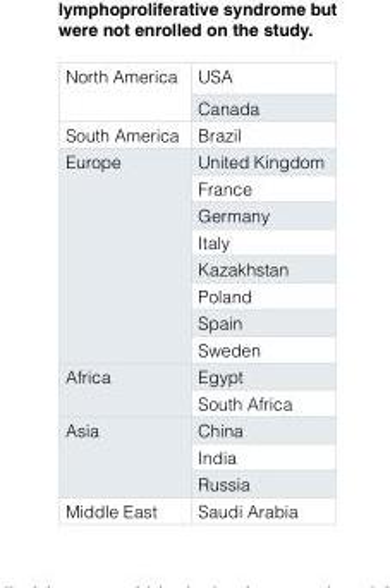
<table><tbody><tr><td rowspan="2">North America</td><td>USA</td></tr><tr><td>Canada</td></tr><tr><td>South America</td><td>Brazil</td></tr><tr><td rowspan="8">Europe</td><td>United Kingdom</td></tr><tr><td>France</td></tr><tr><td>Germany</td></tr><tr><td>Italy</td></tr><tr><td>Kazakhstan</td></tr><tr><td>Poland</td></tr><tr><td>Spain</td></tr><tr><td>Sweden</td></tr><tr><td rowspan="2">Africa</td><td>Egypt</td></tr><tr><td>South Africa</td></tr><tr><td rowspan="3">Asia</td><td>China</td></tr><tr><td>India</td></tr><tr><td>Russia</td></tr><tr><td>Middle East</td><td>Saudi Arabia</td></tr></tbody></table>